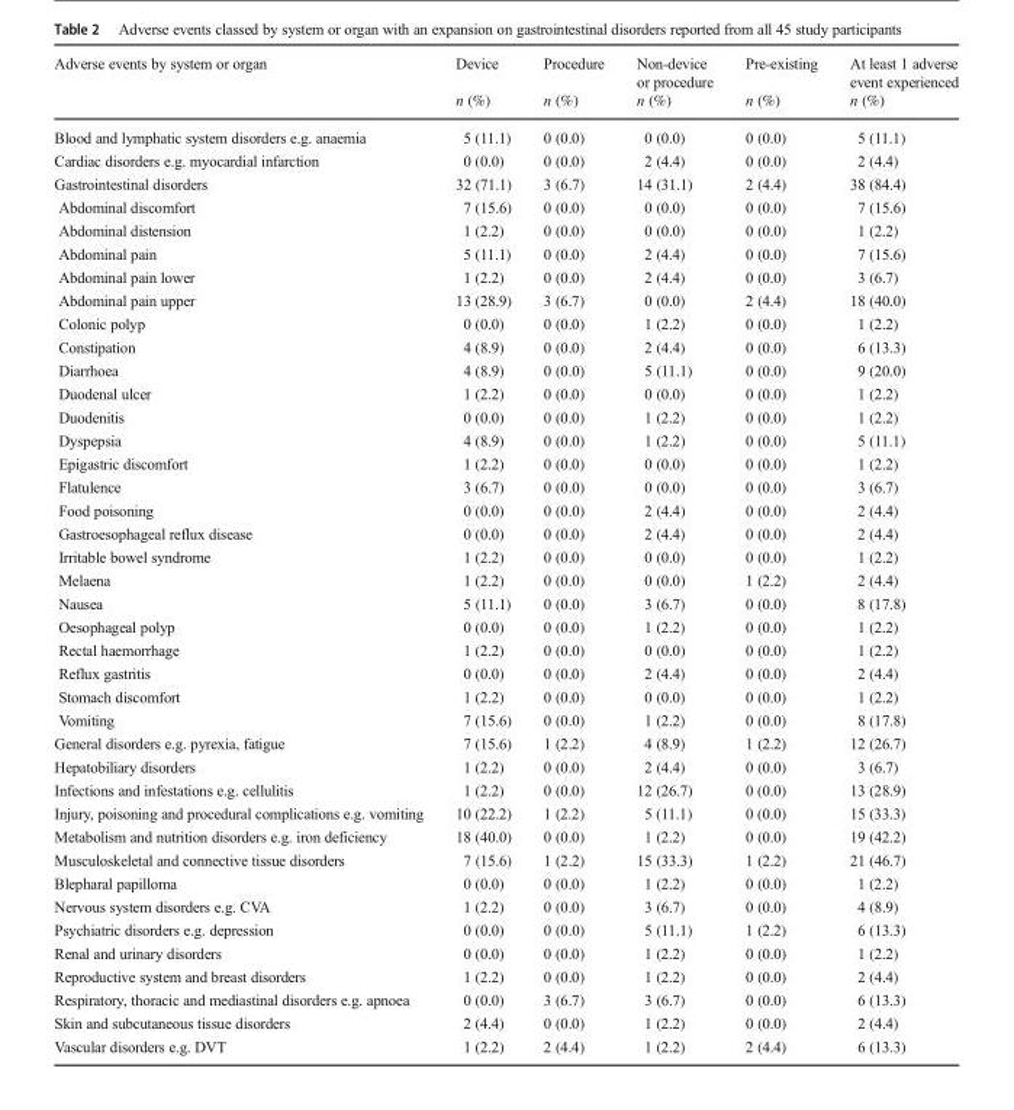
<table><thead><tr><td rowspan="2">Adverse events by system or organ</td><td rowspan="2">Device n (%)</td><td rowspan="2">Procedure n (%)</td><td rowspan="2">Non-device or procedure n (%)</td><td rowspan="2">Pre-existing n (%)</td><td rowspan="2">At least 1 adverse event experienced n (%)</td></tr><tr></tr></thead><tbody><tr><td>Blood and lymphatic system disorders e.g. anaemia</td><td>5 (11.1)</td><td>0 (0.0)</td><td>0 (0.0)</td><td>0 (0.0)</td><td>5 (11.1)</td></tr><tr><td>Cardiac disorders e.g. myocardial infarction</td><td>0 (0.0)</td><td>0 (0.0)</td><td>2 (4.4)</td><td>0 (0.0)</td><td>2 (4.4)</td></tr><tr><td>Gastrointestinal disorders</td><td>32 (71.1)</td><td>3 (6.7)</td><td>14 (31.1)</td><td>2 (4.4)</td><td>38 (84.4)</td></tr><tr><td>Abdominal discomfort</td><td>7 (15.6)</td><td>0 (0.0)</td><td>0 (0.0)</td><td>0 (0.0)</td><td>7 (15.6)</td></tr><tr><td>Abdominal distension</td><td>1 (2.2)</td><td>0 (0.0)</td><td>0 (0.0)</td><td>0 (0.0)</td><td>1 (2.2)</td></tr><tr><td>Abdominal pain</td><td>5 (11.1)</td><td>0 (0.0)</td><td>2 (4.4)</td><td>0 (0.0)</td><td>7 (15.6)</td></tr><tr><td>Abdominal pain lower</td><td>1 (2.2)</td><td>0 (0.0)</td><td>2 (4.4)</td><td>0 (0.0)</td><td>3 (6.7)</td></tr><tr><td>Abdominal pain upper</td><td>13 (28.9)</td><td>3 (6.7)</td><td>0 (0.0)</td><td>2 (4.4)</td><td>18 (40.0)</td></tr><tr><td>Colonic polyp</td><td>0 (0.0)</td><td>0 (0.0)</td><td>1 (2.2)</td><td>0 (0.0)</td><td>1 (2.2)</td></tr><tr><td>Constipation</td><td>4 (8.9)</td><td>0 (0.0)</td><td>2 (4.4)</td><td>0 (0.0)</td><td>6 (13.3)</td></tr><tr><td>Diarrhoea</td><td>4 (8.9)</td><td>0 (0.0)</td><td>5 (11.1)</td><td>0 (0.0)</td><td>9 (20.0)</td></tr><tr><td>Duodenal ulcer</td><td>1 (2.2)</td><td>0 (0.0)</td><td>0 (0.0)</td><td>0 (0.0)</td><td>1 (2.2)</td></tr><tr><td>Duodenitis</td><td>0 (0.0)</td><td>0 (0.0)</td><td>1 (2.2)</td><td>0 (0.0)</td><td>1 (2.2)</td></tr><tr><td>Dyspepsia</td><td>4 (8.9)</td><td>0 (0.0)</td><td>1 (2.2)</td><td>0 (0.0)</td><td>5 (11.1)</td></tr><tr><td>Epigastric discomfort</td><td>1 (2.2)</td><td>0 (0.0)</td><td>0 (0.0)</td><td>0 (0.0)</td><td>1 (2.2)</td></tr><tr><td>Flatulence</td><td>3 (6.7)</td><td>0 (0.0)</td><td>0 (0.0)</td><td>0 (0.0)</td><td>3 (6.7)</td></tr><tr><td>Food poisoning</td><td>0 (0.0)</td><td>0 (0.0)</td><td>2 (4.4)</td><td>0 (0.0)</td><td>2 (4.4)</td></tr><tr><td>Gastroesophageal reflux disease</td><td>0 (0.0)</td><td>0 (0.0)</td><td>2 (4.4)</td><td>0 (0.0)</td><td>2 (4.4)</td></tr><tr><td>Irritable bowel syndrome</td><td>1 (2.2)</td><td>0 (0.0)</td><td>0 (0.0)</td><td>0 (0.0)</td><td>1 (2.2)</td></tr><tr><td>Melaena</td><td>1 (2.2)</td><td>0 (0.0)</td><td>0 (0.0)</td><td>1 (2.2)</td><td>2 (4.4)</td></tr><tr><td>Nausea</td><td>5 (11.1)</td><td>0 (0.0)</td><td>3 (6.7)</td><td>0 (0.0)</td><td>8 (17.8)</td></tr><tr><td>Oesophageal polyp</td><td>0 (0.0)</td><td>0 (0.0)</td><td>1 (2.2)</td><td>0 (0.0)</td><td>1 (2.2)</td></tr><tr><td>Rectal haemorrhage</td><td>1 (2.2)</td><td>0 (0.0)</td><td>0 (0.0)</td><td>0 (0.0)</td><td>1 (2.2)</td></tr><tr><td>Reflux gastritis</td><td>0 (0.0)</td><td>0 (0.0)</td><td>2 (4.4)</td><td>0 (0.0)</td><td>2 (4.4)</td></tr><tr><td>Stomach discomfort</td><td>1 (2.2)</td><td>0 (0.0)</td><td>0 (0.0)</td><td>0 (0.0)</td><td>1 (2.2)</td></tr><tr><td>Vomiting</td><td>7 (15.6)</td><td>0 (0.0)</td><td>1 (2.2)</td><td>0 (0.0)</td><td>8 (17.8)</td></tr><tr><td>General disorders e.g. pyrexia, fatigue</td><td>7 (15.6)</td><td>1 (2.2)</td><td>4 (8.9)</td><td>1 (2.2)</td><td>12 (26.7)</td></tr><tr><td>Hepatobiliary disorders</td><td>1 (2.2)</td><td>0 (0.0)</td><td>2 (4.4)</td><td>0 (0.0)</td><td>3 (6.7)</td></tr><tr><td>Infections and infestations e.g. cellulitis</td><td>1 (2.2)</td><td>0 (0.0)</td><td>12 (26.7)</td><td>0 (0.0)</td><td>13 (28.9)</td></tr><tr><td>Injury, poisoning and procedural complications e.g. vomiting</td><td>10 (22.2)</td><td>1 (2.2)</td><td>5 (11.1)</td><td>0 (0.0)</td><td>15 (33.3)</td></tr><tr><td>Metabolism and nutrition disorders e.g. iron deficiency</td><td>18 (40.0)</td><td>0 (0.0)</td><td>1 (2.2)</td><td>0 (0.0)</td><td>19 (42.2)</td></tr><tr><td>Musculoskeletal and connective tissue disorders</td><td>7 (15.6)</td><td>1 (2.2)</td><td>15 (33.3)</td><td>1 (2.2)</td><td>21 (46.7)</td></tr><tr><td>Blepharal papilloma</td><td>0 (0.0)</td><td>0 (0.0)</td><td>1 (2.2)</td><td>0 (0.0)</td><td>1 (2.2)</td></tr><tr><td>Nervous system disorders e.g. CVA</td><td>1 (2.2)</td><td>0 (0.0)</td><td>3 (6.7)</td><td>0 (0.0)</td><td>4 (8.9)</td></tr><tr><td>Psychiatric disorders e.g. depression</td><td>0 (0.0)</td><td>0 (0.0)</td><td>5 (11.1)</td><td>1 (2.2)</td><td>6 (13.3)</td></tr><tr><td>Renal and urinary disorders</td><td>0 (0.0)</td><td>0 (0.0)</td><td>1 (2.2)</td><td>0 (0.0)</td><td>1 (2.2)</td></tr><tr><td>Reproductive system and breast disorders</td><td>1 (2.2)</td><td>0 (0.0)</td><td>1 (2.2)</td><td>0 (0.0)</td><td>2 (4.4)</td></tr><tr><td>Respiratory, thoracic and mediastinal disorders e.g. apnoea</td><td>0 (0.0)</td><td>3 (6.7)</td><td>3 (6.7)</td><td>0 (0.0)</td><td>6 (13.3)</td></tr><tr><td>Skin and subcutaneous tissue disorders</td><td>2 (4.4)</td><td>0 (0.0)</td><td>1 (2.2)</td><td>0 (0.0)</td><td>2 (4.4)</td></tr><tr><td>Vascular disorders e.g. DVT</td><td>1 (2.2)</td><td>2 (4.4)</td><td>1 (2.2)</td><td>2 (4.4)</td><td>6 (13.3)</td></tr></tbody></table>